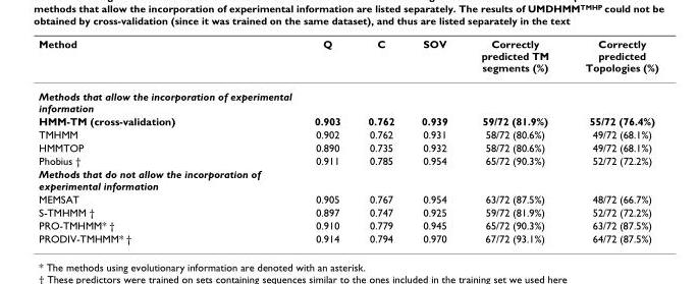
<table><thead><tr><td>Method</td><td>Q</td><td>C</td><td>SOV</td><td>Correctly predicted TM segments (%)</td><td>Correctly predicted Topologies (%)</td></tr></thead><tbody><tr><td colspan="6">Methods that allow the incorporation of experimental information</td></tr><tr><td>HMM-TM (cross-validation)</td><td>0.903</td><td>0.762</td><td>0.939</td><td>59/72 (81.9%)</td><td>55/72 (76.4%)</td></tr><tr><td>TMHMM</td><td>0.902</td><td>0.762</td><td>0.931</td><td>58/72 (80.6%)</td><td>49/72 (68.1%)</td></tr><tr><td>HMMTOP</td><td>0.890</td><td>0.735</td><td>0.932</td><td>58/72 (80.6%)</td><td>49/72 (68.1%)</td></tr><tr><td>Phobius †</td><td>0.911</td><td>0.785</td><td>0.954</td><td>65/72 (90.3%)</td><td>52/72 (72.2%)</td></tr><tr><td colspan="6">Methods that do not allow the incorporation of experimental information</td></tr><tr><td>MEMSAT</td><td>0.905</td><td>0.767</td><td>0.954</td><td>63/72 (87.5%)</td><td>48/72 (66.7%)</td></tr><tr><td>S-TMHMM †</td><td>0.897</td><td>0.747</td><td>0.925</td><td>59/72 (81.9%)</td><td>52/72 (72.2%)</td></tr><tr><td>PRO-TMHMM* †</td><td>0.910</td><td>0.779</td><td>0.945</td><td>65/72 (90.3%)</td><td>63/72 (87.5%)</td></tr><tr><td>PRODIV-TMHMM* †</td><td>0.914</td><td>0.794</td><td>0.970</td><td>67/72 (93.1%)</td><td>64/72 (87.5%)</td></tr></tbody></table>